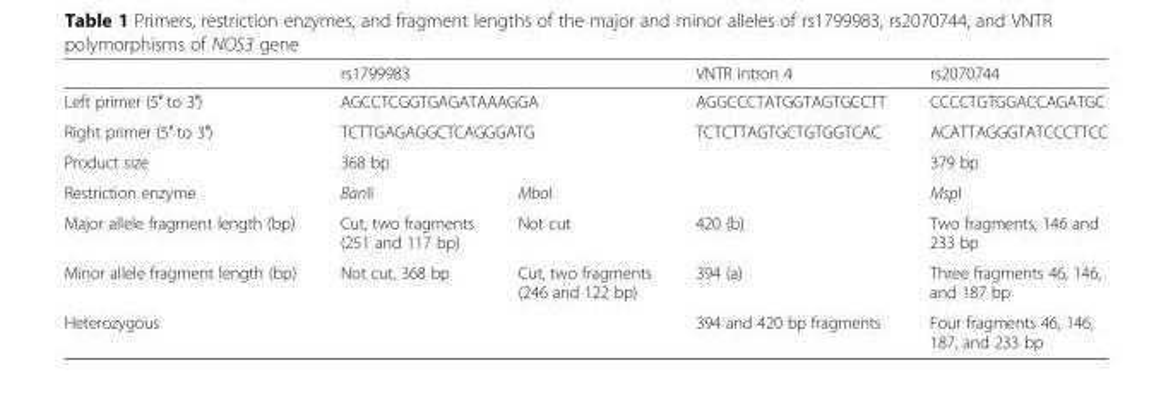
<table><thead><tr><td></td><td colspan="2">rs1799983</td><td>VNTR intron 4</td><td>rs2070744</td></tr></thead><tbody><tr><td>Left primer (5′ to 3′)</td><td colspan="2">AGCCTCGGTGAGATAAAGGA</td><td>AGGCCCTATGGTAGTGCCTT</td><td>CCCCTGTGGACCAGATGC</td></tr><tr><td>Right primer (5′ to 3′)</td><td colspan="2">TCTTGAGAGGCTCAGGGATG</td><td>TCTCTTAGTGCTGTGGTCAC</td><td>ACATTAGGGTATCCCTTCC</td></tr><tr><td>Product size</td><td colspan="2">368 bp</td><td></td><td>379 bp</td></tr><tr><td>Restriction enzyme</td><td>BanII</td><td>MboI</td><td></td><td>MspI</td></tr><tr><td>Major allele fragment length (bp)</td><td>Cut, two fragments (251 and 117 bp)</td><td>Not cut</td><td>420 (b)</td><td>Two fragments, 146 and 233 bp</td></tr><tr><td>Minor allele fragment length (bp)</td><td>Not cut, 368 bp</td><td>Cut, two fragments (246 and 122 bp)</td><td>394 (a)</td><td>Three fragments 46, 146, and 187 bp</td></tr><tr><td>Heterozygous</td><td></td><td></td><td>394 and 420 bp fragments</td><td>Four fragments 46, 146, 187, and 233 bp</td></tr></tbody></table>